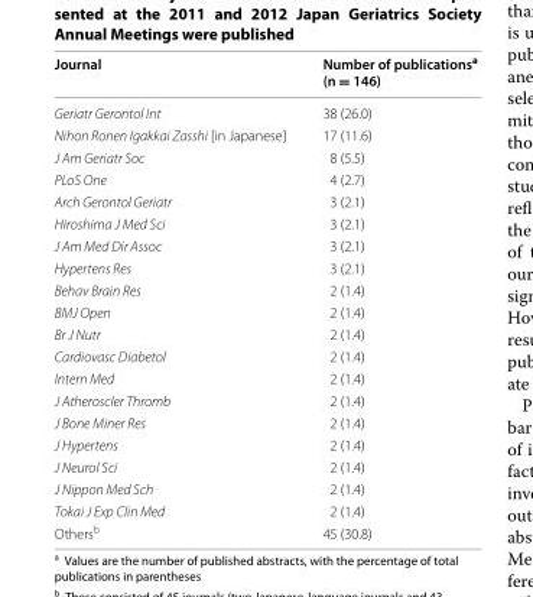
<table><thead><tr><td>Journal</td><td>Number of publications<sup>a</sup> (n = 146)</td></tr></thead><tbody><tr><td>Geriatr Gerontol Int</td><td>38 (26.0)</td></tr><tr><td>Nihon Ronen Igakkai Zasshi [in Japanese]</td><td>17 (11.6)</td></tr><tr><td>J Am Geriatr Soc</td><td>8 (5.5)</td></tr><tr><td>PLoS One</td><td>4 (2.7)</td></tr><tr><td>Arch Gerontol Geriatr</td><td>3 (2.1)</td></tr><tr><td>Hiroshima J Med Sci</td><td>3 (2.1)</td></tr><tr><td>J Am Med Dir Assoc</td><td>3 (2.1)</td></tr><tr><td>Hypertens Res</td><td>3 (2.1)</td></tr><tr><td>Behav Brain Res</td><td>2 (1.4)</td></tr><tr><td>BMJ Open</td><td>2 (1.4)</td></tr><tr><td>Br J Nutr</td><td>2 (1.4)</td></tr><tr><td>Cardiovasc Diabetol</td><td>2 (1.4)</td></tr><tr><td>Intern Med</td><td>2 (1.4)</td></tr><tr><td>J Atheroscler Thromb</td><td>2 (1.4)</td></tr><tr><td>J Bone Miner Res</td><td>2 (1.4)</td></tr><tr><td>J Hypertens</td><td>2 (1.4)</td></tr><tr><td>J Neurol Sci</td><td>2 (1.4)</td></tr><tr><td>J Nippon Med Sch</td><td>2 (1.4)</td></tr><tr><td>Tokai J Exp Clin Med</td><td>2 (1.4)</td></tr><tr><td>Others<sup>b</sup></td><td>45 (30.8)</td></tr></tbody></table>